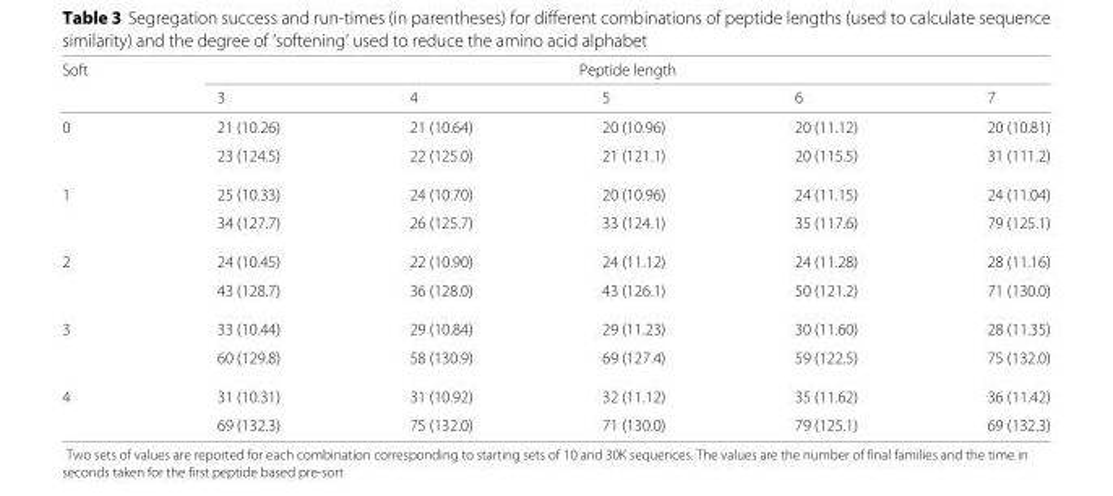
<table><thead><tr><td rowspan="2">Soft</td><td colspan="4">Peptide length</td><td rowspan="2">7</td></tr><tr><td>3</td><td>4</td><td>5</td><td>6</td></tr></thead><tbody><tr><td rowspan="2">0</td><td>21 (10.26)</td><td>21 (10.64)</td><td>20 (10.96)</td><td>20 (11.12)</td><td>20 (10.81)</td></tr><tr><td>23 (124.5)</td><td>22 (125.0)</td><td>21 (121.1)</td><td>20 (115.5)</td><td>31 (111.2)</td></tr><tr><td rowspan="2">1</td><td>25 (10.33)</td><td>24 (10.70)</td><td>20 (10.96)</td><td>24 (11.15)</td><td>24 (11.04)</td></tr><tr><td>34 (127.7)</td><td>26 (125.7)</td><td>33 (124.1)</td><td>35 (117.6)</td><td>79 (125.1)</td></tr><tr><td rowspan="2">2</td><td>24 (10.45)</td><td>22 (10.90)</td><td>24 (11.12)</td><td>24 (11.28)</td><td>28 (11.16)</td></tr><tr><td>43 (128.7)</td><td>36 (128.0)</td><td>43 (126.1)</td><td>50 (121.2)</td><td>71 (130.0)</td></tr><tr><td rowspan="2">3</td><td>33 (10.44)</td><td>29 (10.84)</td><td>29 (11.23)</td><td>30 (11.60)</td><td>28 (11.35)</td></tr><tr><td>60 (129.8)</td><td>58 (130.9)</td><td>69 (127.4)</td><td>59 (122.5)</td><td>75 (132.0)</td></tr><tr><td rowspan="2">4</td><td>31 (10.31)</td><td>31 (10.92)</td><td>32 (11.12)</td><td>35 (11.62)</td><td>36 (11.42)</td></tr><tr><td>69 (132.3)</td><td>75 (132.0)</td><td>71 (130.0)</td><td>79 (125.1)</td><td>69 (132.3)</td></tr></tbody></table>